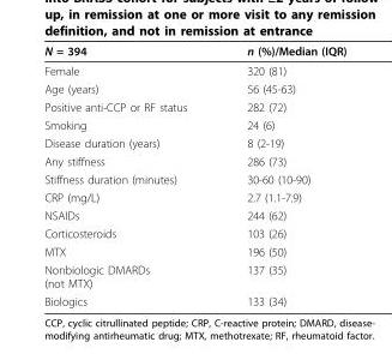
<table><thead><tr><td>N = 394</td><td>n (%)/Median (IQR)</td></tr></thead><tbody><tr><td>Female</td><td>320 (81)</td></tr><tr><td>Age (years)</td><td>56 (45-63)</td></tr><tr><td>Positive anti-CCP or RF status</td><td>282 (72)</td></tr><tr><td>Smoking</td><td>24 (6)</td></tr><tr><td>Disease duration (years)</td><td>8 (2-19)</td></tr><tr><td>Any stiffness</td><td>286 (73)</td></tr><tr><td>Stiffness duration (minutes)</td><td>30-60 (10-90)</td></tr><tr><td>CRP (mg/L)</td><td>2.7 (1.1-7.9)</td></tr><tr><td>NSAIDs</td><td>244 (62)</td></tr><tr><td>Corticosteroids</td><td>103 (26)</td></tr><tr><td>MTX</td><td>196 (50)</td></tr><tr><td>Nonbiologic DMARDs (not MTX)</td><td>137 (35)</td></tr><tr><td>Biologics</td><td>133 (34)</td></tr></tbody></table>